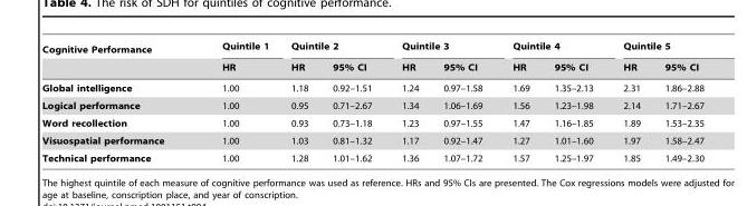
<table><thead><tr><td rowspan="2">Cognitive Performance</td><td rowspan="2">Quintile 1 HR</td><td colspan="2">Quintile 2</td><td colspan="2">Quintile 3</td><td colspan="2">Quintile 4</td><td colspan="2">Quintile 5</td></tr><tr><td>HR</td><td>95% CI</td><td>HR</td><td>95% CI</td><td>HR</td><td>95% CI</td><td>HR</td><td>95% CI</td></tr></thead><tbody><tr><td>Global intelligence</td><td>1.00</td><td>1.18</td><td>0.92–1.51</td><td>1.24</td><td>0.97–1.58</td><td>1.69</td><td>1.35–2.13</td><td>2.31</td><td>1.86–2.88</td></tr><tr><td>Logical performance</td><td>1.00</td><td>0.95</td><td>0.71–2.67</td><td>1.34</td><td>1.06–1.69</td><td>1.56</td><td>1.23–1.98</td><td>2.14</td><td>1.71–2.67</td></tr><tr><td>Word recollection</td><td>1.00</td><td>0.93</td><td>0.73–1.18</td><td>1.23</td><td>0.97–1.55</td><td>1.47</td><td>1.16–1.85</td><td>1.89</td><td>1.53–2.35</td></tr><tr><td>Visuospatial performance</td><td>1.00</td><td>1.03</td><td>0.81–1.32</td><td>1.17</td><td>0.92–1.47</td><td>1.27</td><td>1.01–1.60</td><td>1.97</td><td>1.58–2.47</td></tr><tr><td>Technical performance</td><td>1.00</td><td>1.28</td><td>1.01–1.62</td><td>1.36</td><td>1.07–1.72</td><td>1.57</td><td>1.25–1.97</td><td>1.85</td><td>1.49–2.30</td></tr></tbody></table>